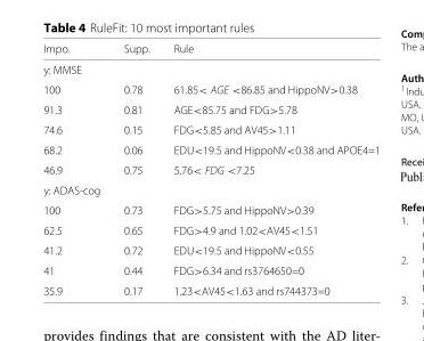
<table><thead><tr><td>Impo.</td><td>Supp.</td><td>Rule</td></tr></thead><tbody><tr><td colspan="3">y: MMSE</td></tr><tr><td>100</td><td>0.78</td><td>61.85&lt; AGE &lt;86.85 and HippoNV&gt;0.38</td></tr><tr><td>91.3</td><td>0.81</td><td>AGE&lt;85.75 and FDG&gt;5.78</td></tr><tr><td>74.6</td><td>0.15</td><td>FDG&lt;5.85 and AV45&gt;1.11</td></tr><tr><td>68.2</td><td>0.06</td><td>EDU&lt;19.5 and HippoNV&lt;0.38 and APOE4=1</td></tr><tr><td>46.9</td><td>0.75</td><td>5.76&lt; FDG &lt;7.25</td></tr><tr><td colspan="3">y: ADAS-cog</td></tr><tr><td>100</td><td>0.73</td><td>FDG&gt;5.75 and HippoNV&gt;0.39</td></tr><tr><td>62.5</td><td>0.65</td><td>FDG&gt;4.9 and 1.02&lt;AV45&lt;1.51</td></tr><tr><td>41.2</td><td>0.72</td><td>EDU&lt;19.5 and HippoNV&lt;0.55</td></tr><tr><td>41</td><td>0.44</td><td>FDG&gt;6.34 and rs3764650=0</td></tr><tr><td>35.9</td><td>0.17</td><td>1.23&lt;AV45&lt;1.63 and rs744373=0</td></tr></tbody></table>